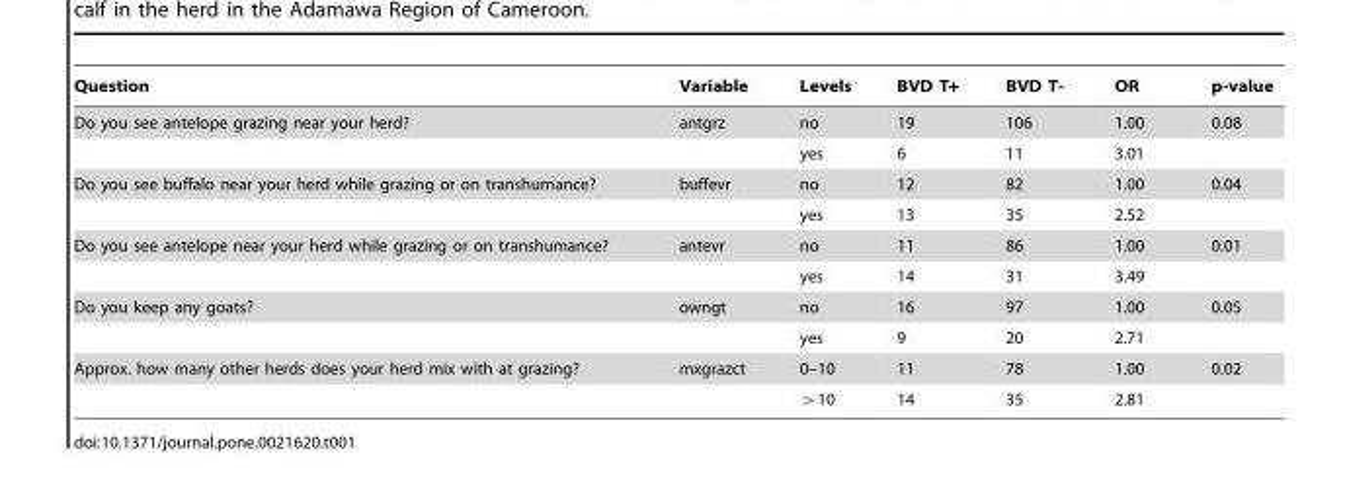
<table><thead><tr><td>Question</td><td>Variable</td><td>Levels</td><td>BVD T+</td><td>BVD T-</td><td>OR</td><td>p-value</td></tr></thead><tbody><tr><td rowspan="2">Do you see antelope grazing near your herd?</td><td>antgrz</td><td>no</td><td>19</td><td>106</td><td>1.00</td><td>0.08</td></tr><tr><td></td><td>yes</td><td>6</td><td>11</td><td>3.01</td><td></td></tr><tr><td rowspan="2">Do you see buffalo near your herd while grazing or on transhumance?</td><td>buffevr</td><td>no</td><td>12</td><td>82</td><td>1.00</td><td>0.04</td></tr><tr><td></td><td>yes</td><td>13</td><td>35</td><td>2.52</td><td></td></tr><tr><td rowspan="2">Do you see antelope near your herd while grazing or on transhumance?</td><td>antevr</td><td>no</td><td>11</td><td>86</td><td>1.00</td><td>0.01</td></tr><tr><td></td><td>yes</td><td>14</td><td>31</td><td>3.49</td><td></td></tr><tr><td rowspan="2">Do you keep any goats?</td><td>owngt</td><td>no</td><td>16</td><td>97</td><td>1.00</td><td>0.05</td></tr><tr><td></td><td>yes</td><td>9</td><td>20</td><td>2.71</td><td></td></tr><tr><td rowspan="2">Approx. how many other herds does your herd mix with at grazing?</td><td>mxgrazct</td><td>0–10</td><td>11</td><td>78</td><td>1.00</td><td>0.02</td></tr><tr><td></td><td>w10</td><td>14</td><td>35</td><td>2.81</td><td></td></tr></tbody></table>